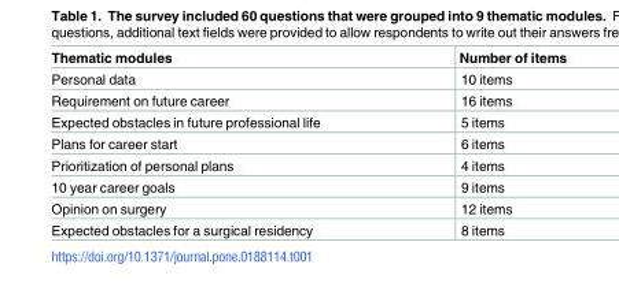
<table><thead><tr><td>Thematic modules</td><td>Number of items</td></tr></thead><tbody><tr><td>Personal data</td><td>10 items</td></tr><tr><td>Requirement on future career</td><td>16 items</td></tr><tr><td>Expected obstacles in future professional life</td><td>5 items</td></tr><tr><td>Plans for career start</td><td>6 items</td></tr><tr><td>Prioritization of personal plans</td><td>4 items</td></tr><tr><td>10 year career goals</td><td>9 items</td></tr><tr><td>Opinion on surgery</td><td>12 items</td></tr><tr><td>Expected obstacles for a surgical residency</td><td>8 items</td></tr></tbody></table>